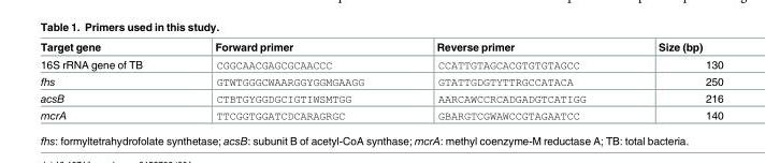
<table><thead><tr><td>Target gene</td><td>Forward primer</td><td>Reverse primer</td><td>Size (bp)</td></tr></thead><tbody><tr><td>16S rRNA gene of TB</td><td>CGGCAACGAGCGCAACCC</td><td>CCATTGTAGCACGTGTGTAGCC</td><td>130</td></tr><tr><td>fhs</td><td>GTWTGGGCWAARGGYGGMGAAGG</td><td>GTATTGDGTYTTRGCCATACA</td><td>250</td></tr><tr><td>acsB</td><td>CTBTGYGGDGCIGTIWSMTGG</td><td>AARCAWCCRCADGADGTCATIGG</td><td>216</td></tr><tr><td>mcrA</td><td>TTCGGTGGATCDCARAGRGC</td><td>GBARGTCGWAWCCGTAGAATCC</td><td>140</td></tr></tbody></table>